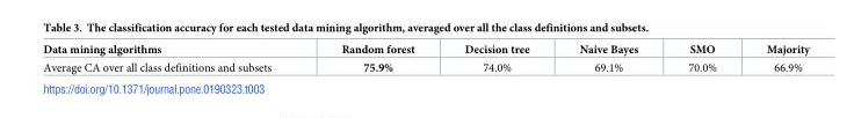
<table><thead><tr><td>Data mining algorithms</td><td>Random forest</td><td>Decision tree</td><td>Naive Bayes</td><td>SMO</td><td>Majority</td></tr></thead><tbody><tr><td>Average CA over all class definitions and subsets</td><td>75.9%</td><td>74.0%</td><td>69.1%</td><td>70.0%</td><td>66.9%</td></tr></tbody></table>